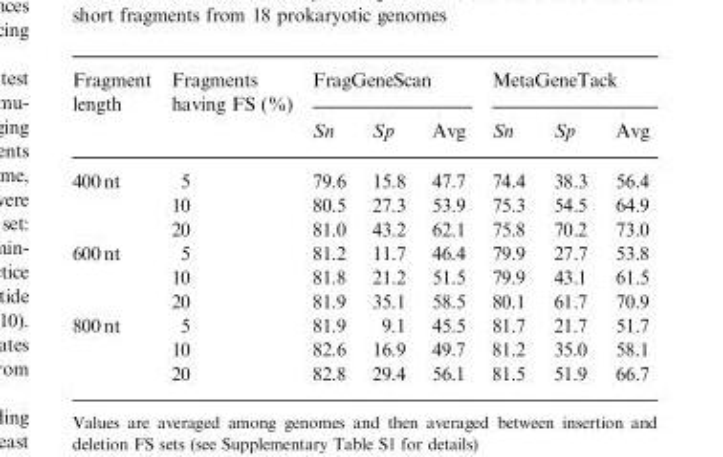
<table><thead><tr><td rowspan="2">Fragment length</td><td rowspan="2">Fragments having FS (%)</td><td colspan="3">FragGeneScan</td><td colspan="3">MetaGeneTack</td></tr><tr><td>Sn</td><td>Sp</td><td>Avg</td><td>Sn</td><td>Sp</td><td>Avg</td></tr></thead><tbody><tr><td rowspan="3">400nt</td><td>5</td><td>79.6</td><td>15.8</td><td>47.7</td><td>74.4</td><td>38.3</td><td>56.4</td></tr><tr><td>10</td><td>80.5</td><td>27.3</td><td>53.9</td><td>75.3</td><td>54.5</td><td>64.9</td></tr><tr><td>20</td><td>81.0</td><td>43.2</td><td>62.1</td><td>75.8</td><td>70.2</td><td>73.0</td></tr><tr><td rowspan="3">600nt</td><td>5</td><td>81.2</td><td>11.7</td><td>46.4</td><td>79.9</td><td>27.7</td><td>53.8</td></tr><tr><td>10</td><td>81.8</td><td>21.2</td><td>51.5</td><td>79.9</td><td>43.1</td><td>61.5</td></tr><tr><td>20</td><td>81.9</td><td>35.1</td><td>58.5</td><td>80.1</td><td>61.7</td><td>70.9</td></tr><tr><td rowspan="3">800nt</td><td>5</td><td>81.9</td><td>9.1</td><td>45.5</td><td>81.7</td><td>21.7</td><td>51.7</td></tr><tr><td>10</td><td>82.6</td><td>16.9</td><td>49.7</td><td>81.2</td><td>35.0</td><td>58.1</td></tr><tr><td>20</td><td>82.8</td><td>29.4</td><td>56.1</td><td>81.5</td><td>51.9</td><td>66.7</td></tr></tbody></table>